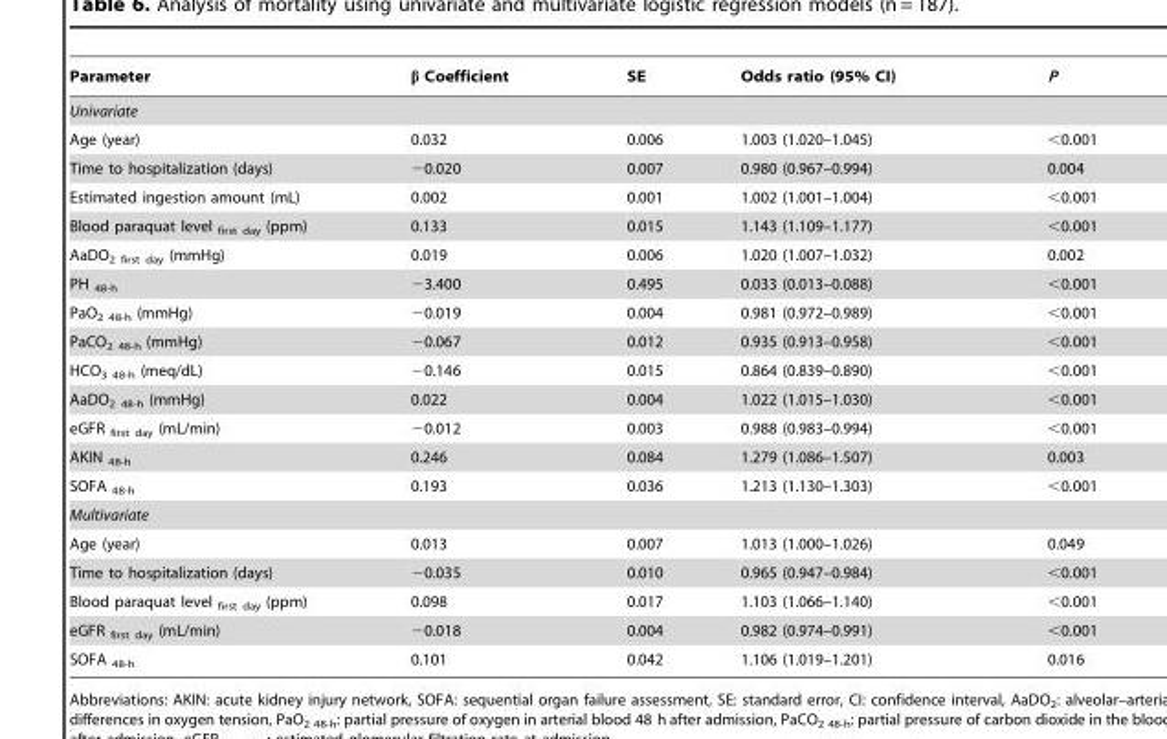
<table><thead><tr><td>Parameter</td><td>β Coefficient</td><td>SE</td><td>Odds ratio (95% CI)</td><td>P</td></tr></thead><tbody><tr><td colspan="5">Univariate</td></tr><tr><td>Age (year)</td><td>0.032</td><td>0.006</td><td>1.003 (1.020–1.045)</td><td>&lt;0.001</td></tr><tr><td>Time to hospitalization (days)</td><td>−0.020</td><td>0.007</td><td>0.980 (0.967–0.994)</td><td>0.004</td></tr><tr><td>Estimated ingestion amount (mL)</td><td>0.002</td><td>0.001</td><td>1.002 (1.001–1.004)</td><td>&lt;0.001</td></tr><tr><td>Blood paraquat level <sub>first day</sub> (ppm)</td><td>0.133</td><td>0.015</td><td>1.143 (1.109–1.177)</td><td>&lt;0.001</td></tr><tr><td>AaDO<sub>2 first day</sub> (mmHg)</td><td>0.019</td><td>0.006</td><td>1.020 (1.007–1.032)</td><td>0.002</td></tr><tr><td>PH <sub>48-h</sub></td><td>−3.400</td><td>0.495</td><td>0.033 (0.013–0.088)</td><td>&lt;0.001</td></tr><tr><td>PaO<sub>2 48-h</sub> (mmHg)</td><td>−0.019</td><td>0.004</td><td>0.981 (0.972–0.989)</td><td>&lt;0.001</td></tr><tr><td>PaCO<sub>2 48-h</sub> (mmHg)</td><td>−0.067</td><td>0.012</td><td>0.935 (0.913–0.958)</td><td>&lt;0.001</td></tr><tr><td>HCO<sub>3 48-h</sub> (meq/dL)</td><td>−0.146</td><td>0.015</td><td>0.864 (0.839–0.890)</td><td>&lt;0.001</td></tr><tr><td>AaDO<sub>2 48-h</sub> (mmHg)</td><td>0.022</td><td>0.004</td><td>1.022 (1.015–1.030)</td><td>&lt;0.001</td></tr><tr><td>eGFR <sub>first day</sub> (mL/min)</td><td>−0.012</td><td>0.003</td><td>0.988 (0.983–0.994)</td><td>&lt;0.001</td></tr><tr><td>AKIN <sub>48-h</sub></td><td>0.246</td><td>0.084</td><td>1.279 (1.086–1.507)</td><td>0.003</td></tr><tr><td>SOFA <sub>48-h</sub></td><td>0.193</td><td>0.036</td><td>1.213 (1.130–1.303)</td><td>&lt;0.001</td></tr><tr><td colspan="5">Multivariate</td></tr><tr><td>Age (year)</td><td>0.013</td><td>0.007</td><td>1.013 (1.000–1.026)</td><td>0.049</td></tr><tr><td>Time to hospitalization (days)</td><td>−0.035</td><td>0.010</td><td>0.965 (0.947–0.984)</td><td>&lt;0.001</td></tr><tr><td>Blood paraquat level <sub>first day</sub> (ppm)</td><td>0.098</td><td>0.017</td><td>1.103 (1.066–1.140)</td><td>&lt;0.001</td></tr><tr><td>eGFR <sub>first day</sub> (mL/min)</td><td>−0.018</td><td>0.004</td><td>0.982 (0.974–0.991)</td><td>&lt;0.001</td></tr><tr><td>SOFA <sub>48-h</sub></td><td>0.101</td><td>0.042</td><td>1.106 (1.019–1.201)</td><td>0.016</td></tr></tbody></table>